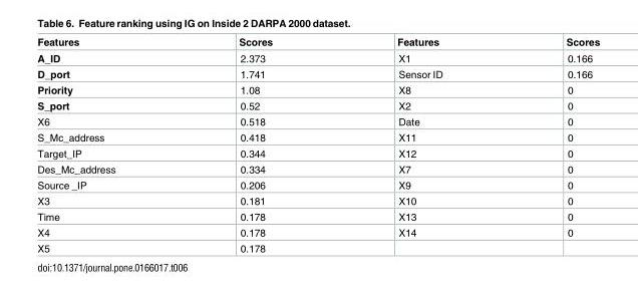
<table><thead><tr><td>Features</td><td>Scores</td><td>Features</td><td>Scores</td></tr></thead><tbody><tr><td>A_ID</td><td>2.373</td><td>X1</td><td>0.166</td></tr><tr><td>D_port</td><td>1.741</td><td>Sensor ID</td><td>0.166</td></tr><tr><td>Priority</td><td>1.08</td><td>X8</td><td>0</td></tr><tr><td>S_port</td><td>0.52</td><td>X2</td><td>0</td></tr><tr><td>X6</td><td>0.518</td><td>Date</td><td>0</td></tr><tr><td>S_Mc_address</td><td>0.418</td><td>X11</td><td>0</td></tr><tr><td>Target_IP</td><td>0.344</td><td>X12</td><td>0</td></tr><tr><td>Des_Mc_address</td><td>0.334</td><td>X7</td><td>0</td></tr><tr><td>Source _IP</td><td>0.206</td><td>X9</td><td>0</td></tr><tr><td>X3</td><td>0.181</td><td>X10</td><td>0</td></tr><tr><td>Time</td><td>0.178</td><td>X13</td><td>0</td></tr><tr><td>X4</td><td>0.178</td><td>X14</td><td>0</td></tr><tr><td>X5</td><td>0.178</td><td></td><td></td></tr></tbody></table>